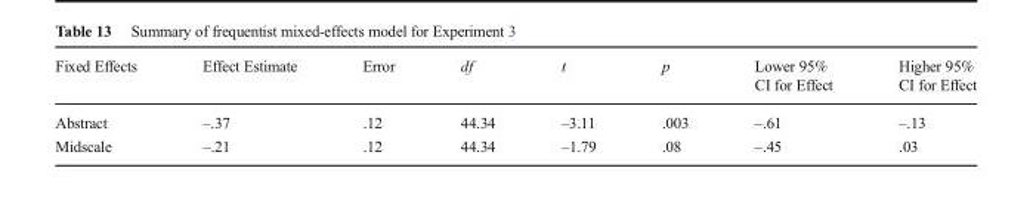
<table><thead><tr><td>Fixed Effects</td><td>Effect Estimate</td><td>Error</td><td>df</td><td>t</td><td>p</td><td>Lower 95% CI for Effect</td><td>Higher 95% CI for Effect</td></tr></thead><tbody><tr><td>Abstract</td><td>–.37</td><td>.12</td><td>44.34</td><td>–3.11</td><td>.003</td><td>–.61</td><td>–.13</td></tr><tr><td>Midscale</td><td>–.21</td><td>.12</td><td>44.34</td><td>–1.79</td><td>.08</td><td>–.45</td><td>.03</td></tr></tbody></table>